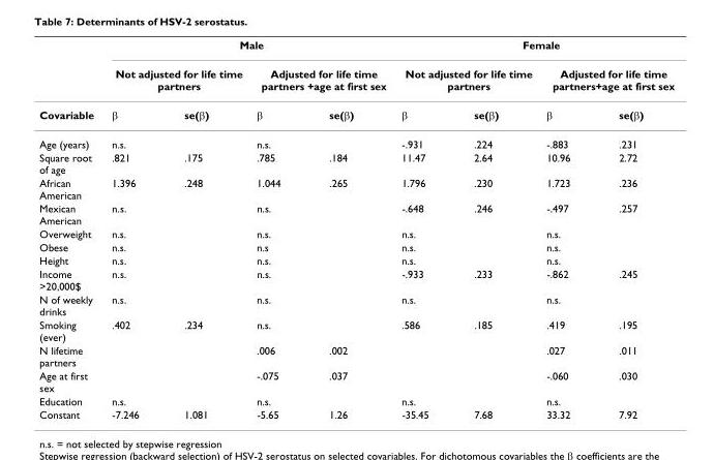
<table><thead><tr><td rowspan="3">Covariable</td><td colspan="4">Male</td><td colspan="4">Female</td></tr><tr><td colspan="2">Not adjusted for life time partners</td><td colspan="2">Adjusted for life time partners +age at first sex</td><td colspan="2">Not adjusted for life time partners</td><td colspan="2">Adjusted for life time partners+age at first sex</td></tr><tr><td>β</td><td>se(β)</td><td>β</td><td>se(β)</td><td>β</td><td>se(β)</td><td>β</td><td>se(β)</td></tr></thead><tbody><tr><td>Age (years)</td><td>n.s.</td><td></td><td>n.s.</td><td></td><td>-.931</td><td>.224</td><td>-.883</td><td>.231</td></tr><tr><td>Square root of age</td><td>.821</td><td>.175</td><td>.785</td><td>.184</td><td>11.47</td><td>2.64</td><td>10.96</td><td>2.72</td></tr><tr><td>African American</td><td>1.396</td><td>.248</td><td>1.044</td><td>.265</td><td>1.796</td><td>.230</td><td>1.723</td><td>.236</td></tr><tr><td>Mexican American</td><td>n.s.</td><td></td><td>n.s.</td><td></td><td>-.648</td><td>.246</td><td>-.497</td><td>.257</td></tr><tr><td>Overweight</td><td>n.s.</td><td></td><td>n.s.</td><td></td><td>n.s.</td><td></td><td>n.s.</td><td></td></tr><tr><td>Obese</td><td>n.s.</td><td></td><td>n.s</td><td></td><td>n.s.</td><td></td><td>n.s.</td><td></td></tr><tr><td>Height</td><td>n.s.</td><td></td><td>n.s.</td><td></td><td>n.s.</td><td></td><td>n.s.</td><td></td></tr><tr><td>Income &gt;20,000$</td><td>n.s.</td><td></td><td>n.s.</td><td></td><td>-.933</td><td>.233</td><td>-.862</td><td>.245</td></tr><tr><td>N of weekly drinks</td><td>n.s.</td><td></td><td>n.s.</td><td></td><td>n.s.</td><td></td><td>n.s.</td><td></td></tr><tr><td>Smoking (ever)</td><td>.402</td><td>.234</td><td>n.s.</td><td></td><td>.586</td><td>.185</td><td>.419</td><td>.195</td></tr><tr><td>N lifetime partners</td><td></td><td></td><td>.006</td><td>.002</td><td></td><td></td><td>.027</td><td>.011</td></tr><tr><td>Age at first sex</td><td></td><td></td><td>-.075</td><td>.037</td><td></td><td></td><td>-.060</td><td>.030</td></tr><tr><td>Education</td><td>n.s.</td><td></td><td>n.s.</td><td></td><td>n.s.</td><td></td><td>n.s.</td><td></td></tr><tr><td>Constant</td><td>-7.246</td><td>1.081</td><td>-5.65</td><td>1.26</td><td>-35.45</td><td>7.68</td><td>33.32</td><td>7.92</td></tr></tbody></table>